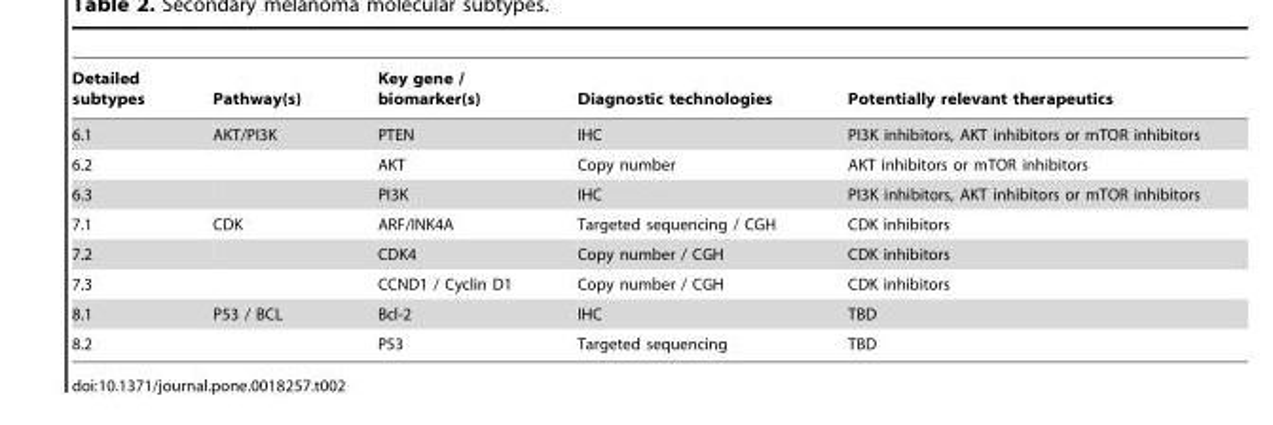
<table><thead><tr><td>Detailed subtypes</td><td>Pathway(s)</td><td>Key gene / biomarker(s)</td><td>Diagnostic technologies</td><td>Potentially relevant therapeutics</td></tr></thead><tbody><tr><td>6.1</td><td>AKT/PI3K</td><td>PTEN</td><td>IHC</td><td>PI3K inhibitors, AKT inhibitors or mTOR inhibitors</td></tr><tr><td>6.2</td><td></td><td>AKT</td><td>Copy number</td><td>AKT inhibitors or mTOR inhibitors</td></tr><tr><td>6.3</td><td></td><td>PI3K</td><td>IHC</td><td>PI3K inhibitors, AKT inhibitors or mTOR inhibitors</td></tr><tr><td>7.1</td><td>CDK</td><td>ARF/INK4A</td><td>Targeted sequencing / CGH</td><td>CDK inhibitors</td></tr><tr><td>7.2</td><td></td><td>CDK4</td><td>Copy number / CGH</td><td>CDK inhibitors</td></tr><tr><td>7.3</td><td></td><td>CCND1 / Cyclin D1</td><td>Copy number / CGH</td><td>CDK inhibitors</td></tr><tr><td>8.1</td><td>P53 / BCL</td><td>Bcl-2</td><td>IHC</td><td>TBD</td></tr><tr><td>8.2</td><td></td><td>P53</td><td>Targeted sequencing</td><td>TBD</td></tr></tbody></table>